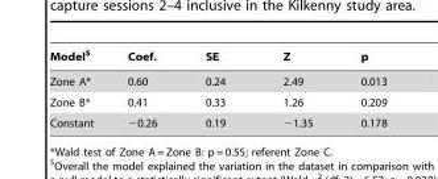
<table><thead><tr><td>Model$</td><td>Coef.</td><td>SE</td><td>Z</td><td>p</td></tr></thead><tbody><tr><td>Zone A*</td><td>0.60</td><td>0.24</td><td>2.49</td><td>0.013</td></tr><tr><td>Zone B*</td><td>0.41</td><td>0.33</td><td>1.26</td><td>0.209</td></tr><tr><td>Constant</td><td>−0.26</td><td>0.19</td><td>−1.35</td><td>0.178</td></tr></tbody></table>